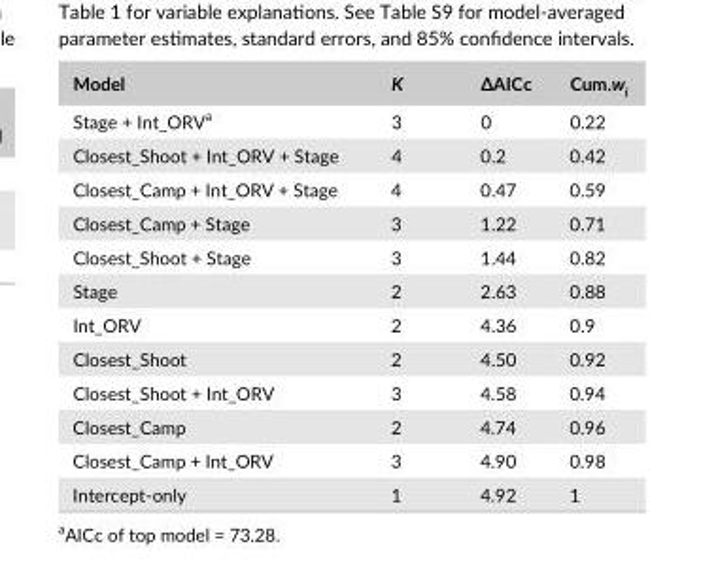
<table><thead><tr><td>Model</td><td>K</td><td>ΔAICc</td><td>Cum.w<sub>i</sub></td></tr></thead><tbody><tr><td>Stage + Int_ORV<sup>a</sup></td><td>3</td><td>0</td><td>0.22</td></tr><tr><td>Closest_Shoot + Int_ORV + Stage</td><td>4</td><td>0.2</td><td>0.42</td></tr><tr><td>Closest_Camp + Int_ORV + Stage</td><td>4</td><td>0.47</td><td>0.59</td></tr><tr><td>Closest_Camp + Stage</td><td>3</td><td>1.22</td><td>0.71</td></tr><tr><td>Closest_Shoot + Stage</td><td>3</td><td>1.44</td><td>0.82</td></tr><tr><td>Stage</td><td>2</td><td>2.63</td><td>0.88</td></tr><tr><td>Int_ORV</td><td>2</td><td>4.36</td><td>0.9</td></tr><tr><td>Closest_Shoot</td><td>2</td><td>4.50</td><td>0.92</td></tr><tr><td>Closest_Shoot + Int_ORV</td><td>3</td><td>4.58</td><td>0.94</td></tr><tr><td>Closest_Camp</td><td>2</td><td>4.74</td><td>0.96</td></tr><tr><td>Closest_Camp + Int_ORV</td><td>3</td><td>4.90</td><td>0.98</td></tr><tr><td>Intercept- only</td><td>1</td><td>4.92</td><td>1</td></tr></tbody></table>